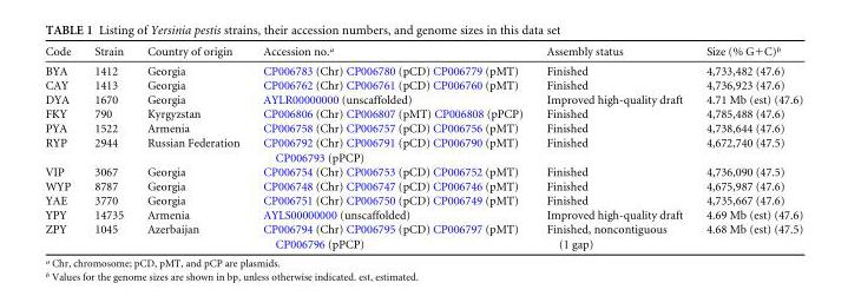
<table><thead><tr><td>Code</td><td>Strain</td><td>Country of origin</td><td>Accession no.<sup>a</sup></td><td>Assembly status</td><td>Size (% G+C)<sup>b</sup></td></tr></thead><tbody><tr><td>BYA</td><td>1412</td><td>Georgia</td><td>CP006783 (Chr) CP006780 (pCD) CP006779 (pMT)</td><td>Finished</td><td>4,733,482 (47.6)</td></tr><tr><td>CAY</td><td>1413</td><td>Georgia</td><td>CP006762 (Chr) CP006761 (pCD) CP006760 (pMT)</td><td>Finished</td><td>4,736,923 (47.6)</td></tr><tr><td>DYA</td><td>1670</td><td>Georgia</td><td>AYLR00000000 (unscaffolded)</td><td>Improved high-quality draft</td><td>4.71 Mb (est) (47.6)</td></tr><tr><td>FKY</td><td>790</td><td>Kyrgyzstan</td><td>CP006806 (Chr) CP006807 (pMT) CP006808 (pPCP)</td><td>Finished</td><td>4,785,488 (47.6)</td></tr><tr><td>PYA</td><td>1522</td><td>Armenia</td><td>CP006758 (Chr) CP006757 (pCD) CP006756 (pMT)</td><td>Finished</td><td>4,738,644 (47.6)</td></tr><tr><td>RYP</td><td>2944</td><td>Russian Federation</td><td>CP006792 (Chr) CP006791 (pCD) CP006790 (pMT) CP006793 (pPCP)</td><td>Finished</td><td>4,672,740 (47.5)</td></tr><tr><td>VIP</td><td>3067</td><td>Georgia</td><td>CP006754 (Chr) CP006753 (pCD) CP006752 (pMT)</td><td>Finished</td><td>4,736,090 (47.5)</td></tr><tr><td>WYP</td><td>8787</td><td>Georgia</td><td>CP006748 (Chr) CP006747 (pCD) CP006746 (pMT)</td><td>Finished</td><td>4,675,987 (47.6)</td></tr><tr><td>YAE</td><td>3770</td><td>Georgia</td><td>CP006751 (Chr) CP006750 (pCD) CP006749 (pMT)</td><td>Finished</td><td>4,735,667 (47.6)</td></tr><tr><td>YPY</td><td>14735</td><td>Armenia</td><td>AYLS00000000 (unscaffolded)</td><td>Improved high-quality draft</td><td>4.69 Mb (est) (47.6)</td></tr><tr><td>ZPY</td><td>1045</td><td>Azerbaijan</td><td>CP006794 (Chr) CP006795 (pCD) CP006797 (pMT) CP006796 (pPCP)</td><td>Finished, noncontiguous (1 gap)</td><td>4.68 Mb (est) (47.5)</td></tr></tbody></table>